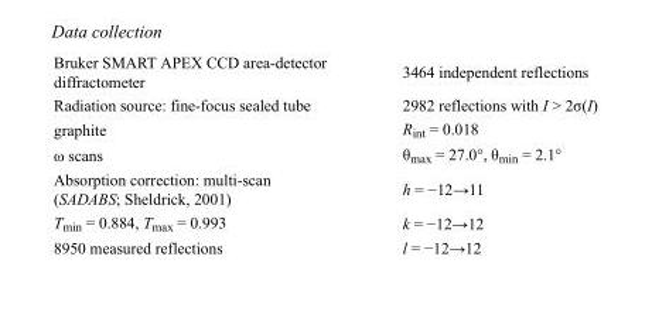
<table><tbody><tr><td>Bruker SMART APEX CCD area-detector diffractometer</td><td>3464 independent reflections</td></tr><tr><td>Radiation source: fine-focus sealed tube</td><td>2982 reflections with I &gt; 2σ(I)</td></tr><tr><td>graphite</td><td>R<sub>int</sub> = 0.018</td></tr><tr><td>ω scans</td><td>θ<sub>max</sub> = 27.0°, θ<sub>min</sub> = 2.1°</td></tr><tr><td>Absorption correction: multi-scan (SADABS; Sheldrick, 2001)</td><td>h = −12→11</td></tr><tr><td>T<sub>min</sub> = 0.884, T<sub>max</sub> = 0.993</td><td>k = −12→12</td></tr><tr><td>8950 measured reflections</td><td>l = −12→12</td></tr></tbody></table>